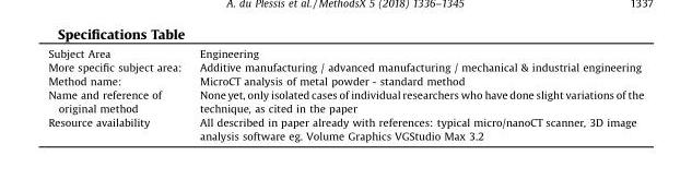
<table><tbody><tr><td>Subject Area</td><td>Engineering</td></tr><tr><td>More specific subject area:</td><td>Additive manufacturing / advanced manufacturing / mechanical &amp; industrial engineering</td></tr><tr><td>Method name:</td><td>MicroCT analysis of metal powder - standard method</td></tr><tr><td>Name and reference of original method</td><td>None yet, only isolated cases of individual researchers who have done slight variations of the technique, as cited in the paper</td></tr><tr><td>Resource availability</td><td>All described in paper already with references: typical micro/nanoCT scanner, 3D image analysis software eg. Volume Graphics VGStudio Max 3.2</td></tr></tbody></table>